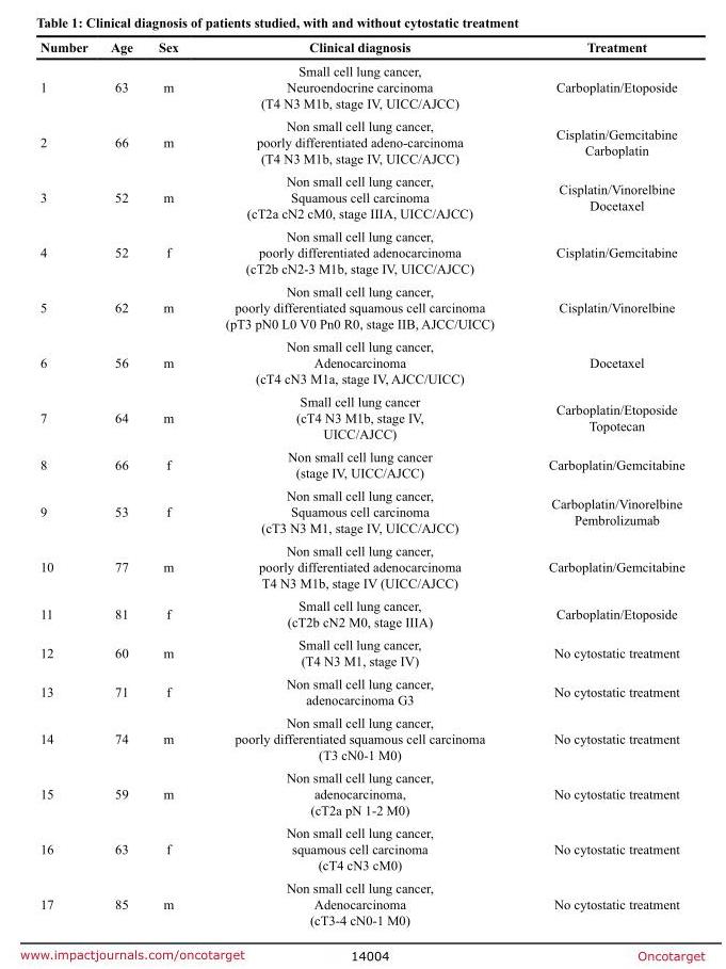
<table><thead><tr><td>Number</td><td>Age</td><td>Sex</td><td>Clinical diagnosis</td><td>Treatment</td></tr></thead><tbody><tr><td>1</td><td>63</td><td>m</td><td>Small cell lung cancer, Neuroendocrine carcinoma (T4 N3 M1b, stage IV, UICC/AJCC)</td><td>Carboplatin/Etoposide</td></tr><tr><td>2</td><td>66</td><td>m</td><td>Non small cell lung cancer, poorly differentiated adeno-carcinoma (T4 N3 M1b, stage IV, UICC/AJCC)</td><td>Cisplatin/Gemcitabine Carboplatin</td></tr><tr><td>3</td><td>52</td><td>m</td><td>Non small cell lung cancer, Squamous cell carcinoma (cT2a cN2 cM0, stage IIIA, UICC/AJCC)</td><td>Cisplatin/Vinorelbine Docetaxel</td></tr><tr><td>4</td><td>52</td><td>f</td><td>Non small cell lung cancer, poorly differentiated adenocarcinoma (cT2b cN2-3 M1b, stage IV, UICC/AJCC)</td><td>Cisplatin/Gemcitabine</td></tr><tr><td>5</td><td>62</td><td>m</td><td>Non small cell lung cancer, poorly differentiated squamous cell carcinoma (pT3 pN0 L0 V0 Pn0 R0, stage IIB, AJCC/UICC)</td><td>Cisplatin/Vinorelbine</td></tr><tr><td>6</td><td>56</td><td>m</td><td>Non small cell lung cancer, Adenocarcinoma (cT4 cN3 M1a, stage IV, AJCC/UICC)</td><td>Docetaxel</td></tr><tr><td>7</td><td>64</td><td>m</td><td>Small cell lung cancer (cT4 N3 M1b, stage IV, UICC/AJCC)</td><td>Carboplatin/Etoposide Topotecan</td></tr><tr><td>8</td><td>66</td><td>f</td><td>Non small cell lung cancer (stage IV, UICC/AJCC)</td><td>Carboplatin/Gemcitabine</td></tr><tr><td>9</td><td>53</td><td>f</td><td>Non small cell lung cancer, Squamous cell carcinoma (cT3 N3 M1, stage IV, UICC/AJCC)</td><td>Carboplatin/Vinorelbine Pembrolizumab</td></tr><tr><td>10</td><td>77</td><td>m</td><td>Non small cell lung cancer, poorly differentiated adenocarcinoma T4 N3 M1b, stage IV (UICC/AJCC)</td><td>Carboplatin/Gemcitabine</td></tr><tr><td>11</td><td>81</td><td>f</td><td>Small cell lung cancer, (cT2b cN2 M0, stage IIIA)</td><td>Carboplatin/Etoposide</td></tr><tr><td>12</td><td>60</td><td>m</td><td>Small cell lung cancer, (T4 N3 M1, stage IV)</td><td>No cytostatic treatment</td></tr><tr><td>13</td><td>71</td><td>f</td><td>Non small cell lung cancer, adenocarcinoma G3</td><td>No cytostatic treatment</td></tr><tr><td>14</td><td>74</td><td>m</td><td>Non small cell lung cancer, poorly differentiated squamous cell carcinoma (T3 cN0-1 M0)</td><td>No cytostatic treatment</td></tr><tr><td>15</td><td>59</td><td>m</td><td>Non small cell lung cancer, adenocarcinoma, (cT2a pN 1-2 M0)</td><td>No cytostatic treatment</td></tr><tr><td>16</td><td>63</td><td>f</td><td>Non small cell lung cancer, squamous cell carcinoma (cT4 cN3 cM0)</td><td>No cytostatic treatment</td></tr><tr><td>17</td><td>85</td><td>m</td><td>Non small cell lung cancer, Adenocarcinoma (cT3-4 cN0-1 M0)</td><td>No cytostatic treatment</td></tr></tbody></table>